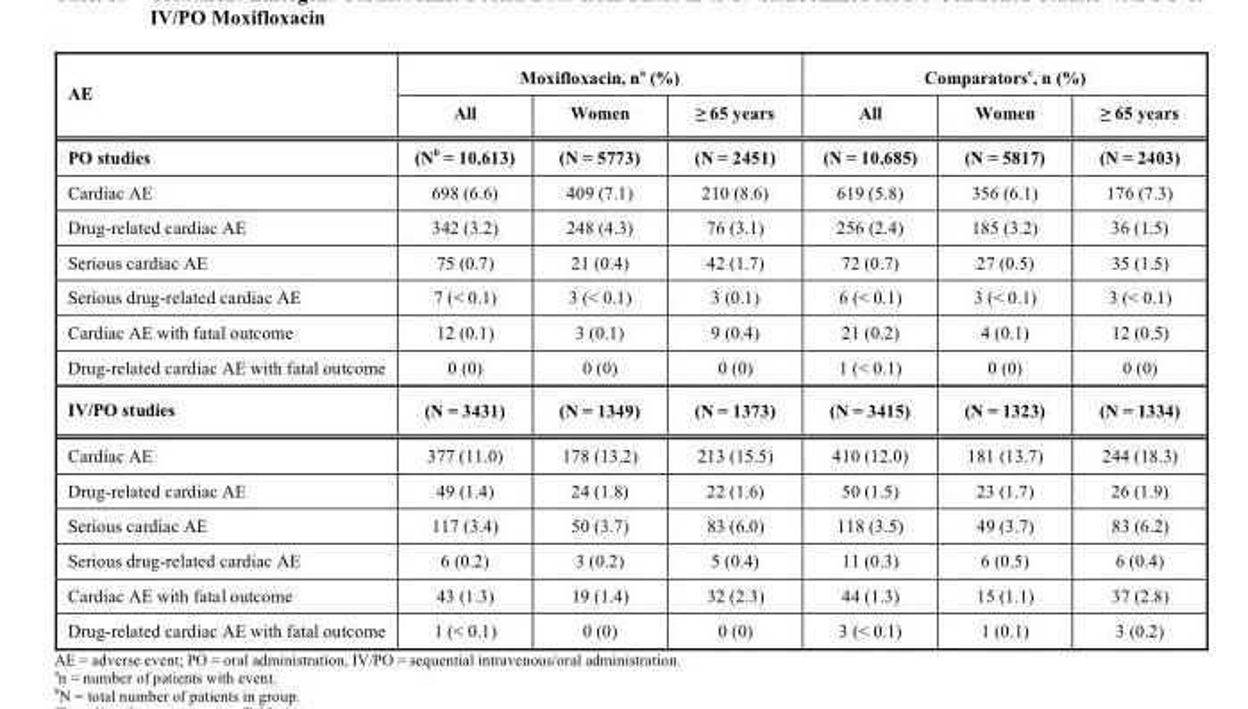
<table><thead><tr><td rowspan="2">AE</td><td colspan="3">Moxifloxacin, n<sup>a</sup> (%)</td><td colspan="3">Comparators<sup>c</sup>, n (%)</td></tr><tr><td>All</td><td>Women</td><td>≥ 65 years</td><td>All</td><td>Women</td><td>≥ 65 years</td></tr></thead><tbody><tr><td>PO studies</td><td>(N<sup>b</sup> = 10,613)</td><td>(N = 5773)</td><td>(N = 2451)</td><td>(N = 10,685)</td><td>(N = 5817)</td><td>(N = 2403)</td></tr><tr><td>Cardiac AE</td><td>698 (6.6)</td><td>409 (7.1)</td><td>210 (8.6)</td><td>619 (5.8)</td><td>356 (6.1)</td><td>176 (7.3)</td></tr><tr><td>Drug-related cardiac AE</td><td>342 (3.2)</td><td>248 (4.3)</td><td>76 (3.1)</td><td>256 (2.4)</td><td>185 (3.2)</td><td>36 (1.5)</td></tr><tr><td>Serious cardiac AE</td><td>75 (0.7)</td><td>21 (0.4)</td><td>42 (1.7)</td><td>72 (0.7)</td><td>27 (0.5)</td><td>35 (1.5)</td></tr><tr><td>Serious drug-related cardiac AE</td><td>7 (&lt; 0.1)</td><td>3 (&lt; 0.1)</td><td>3 (0.1)</td><td>6 (&lt; 0.1)</td><td>3 (&lt; 0.1)</td><td>3 (&lt; 0.1)</td></tr><tr><td>Cardiac AE with fatal outcome</td><td>12 (0.1)</td><td>3 (0.1)</td><td>9 (0.4)</td><td>21 (0.2)</td><td>4 (0.1)</td><td>12 (0.5)</td></tr><tr><td>Drug-related cardiac AE with fatal outcome</td><td>0 (0)</td><td>0 (0)</td><td>0 (0)</td><td>1 (&lt; 0.1)</td><td>0 (0)</td><td>0 (0)</td></tr><tr><td>IV/PO studies</td><td>(N = 3431)</td><td>(N = 1349)</td><td>(N = 1373)</td><td>(N = 3415)</td><td>(N = 1323)</td><td>(N = 1334)</td></tr><tr><td>Cardiac AE</td><td>377 (11.0)</td><td>178 (13.2)</td><td>213 (15.5)</td><td>410 (12.0)</td><td>181 (13.7)</td><td>244 (18.3)</td></tr><tr><td>Drug-related cardiac AE</td><td>49 (1.4)</td><td>24 (1.8)</td><td>22 (1.6)</td><td>50 (1.5)</td><td>23 (1.7)</td><td>26 (1.9)</td></tr><tr><td>Serious cardiac AE</td><td>117 (3.4)</td><td>50 (3.7)</td><td>83 (6.0)</td><td>118 (3.5)</td><td>49 (3.7)</td><td>83 (6.2)</td></tr><tr><td>Serious drug-related cardiac AE</td><td>6 (0.2)</td><td>3 (0.2)</td><td>5 (0.4)</td><td>11 (0.3)</td><td>6 (0.5)</td><td>6 (0.4)</td></tr><tr><td>Cardiac AE with fatal outcome</td><td>43 (1.3)</td><td>19 (1.4)</td><td>32 (2.3)</td><td>44 (1.3)</td><td>15 (1.1)</td><td>37 (2.8)</td></tr><tr><td>Drug-related cardiac AE with fatal outcome</td><td>1 (&lt; 0.1)</td><td>0 (0)</td><td>0 (0)</td><td>3 (&lt; 0.1)</td><td>1 (0.1)</td><td>3 (0.2)</td></tr></tbody></table>